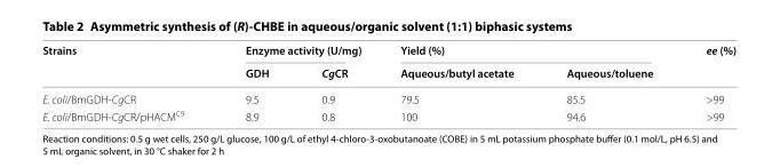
<table><thead><tr><td rowspan="2">Strains</td><td colspan="2">Enzyme activity (U/mg)</td><td colspan="2">Yield (%)</td><td rowspan="2">ee (%)</td></tr><tr><td>GDH</td><td>CgCR</td><td>Aqueous/butyl acetate</td><td>Aqueous/toluene</td></tr></thead><tbody><tr><td>E. coli/BmGDH-CgCR</td><td>9.5</td><td>0.9</td><td>79.5</td><td>85.5</td><td>&gt;99</td></tr><tr><td>E. coli/BmGDH-CgCR/pHACM<sup>C9</sup></td><td>8.9</td><td>0.8</td><td>100</td><td>94.6</td><td>&gt;99</td></tr></tbody></table>